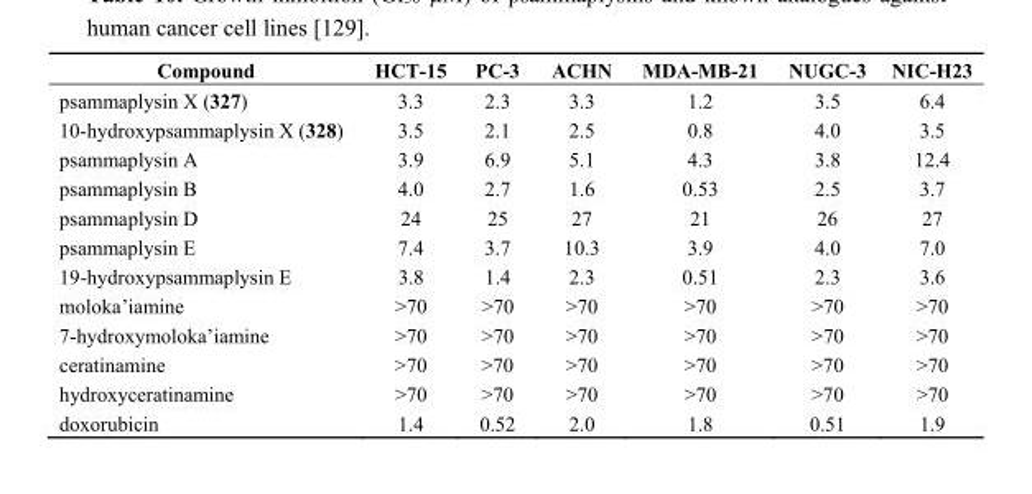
<table><thead><tr><td>Compound</td><td>HCT-15</td><td>PC-3</td><td>ACHN</td><td>MDA-MB-21</td><td>NUGC-3</td><td>NIC-H23</td></tr></thead><tbody><tr><td>psammaplysin X (327)</td><td>3.3</td><td>2.3</td><td>3.3</td><td>1.2</td><td>3.5</td><td>6.4</td></tr><tr><td>10-hydroxypsammaplysin X (328)</td><td>3.5</td><td>2.1</td><td>2.5</td><td>0.8</td><td>4.0</td><td>3.5</td></tr><tr><td>psammaplysin A</td><td>3.9</td><td>6.9</td><td>5.1</td><td>4.3</td><td>3.8</td><td>12.4</td></tr><tr><td>psammaplysin B</td><td>4.0</td><td>2.7</td><td>1.6</td><td>0.53</td><td>2.5</td><td>3.7</td></tr><tr><td>psammaplysin D</td><td>24</td><td>25</td><td>27</td><td>21</td><td>26</td><td>27</td></tr><tr><td>psammaplysin E</td><td>7.4</td><td>3.7</td><td>10.3</td><td>3.9</td><td>4.0</td><td>7.0</td></tr><tr><td>19-hydroxypsammaplysin E</td><td>3.8</td><td>1.4</td><td>2.3</td><td>0.51</td><td>2.3</td><td>3.6</td></tr><tr><td>moloka’iamine</td><td>&gt;70</td><td>&gt;70</td><td>&gt;70</td><td>&gt;70</td><td>&gt;70</td><td>&gt;70</td></tr><tr><td>7-hydroxymoloka’iamine</td><td>&gt;70</td><td>&gt;70</td><td>&gt;70</td><td>&gt;70</td><td>&gt;70</td><td>&gt;70</td></tr><tr><td>ceratinamine</td><td>&gt;70</td><td>&gt;70</td><td>&gt;70</td><td>&gt;70</td><td>&gt;70</td><td>&gt;70</td></tr><tr><td>hydroxyceratinamine</td><td>&gt;70</td><td>&gt;70</td><td>&gt;70</td><td>&gt;70</td><td>&gt;70</td><td>&gt;70</td></tr><tr><td>doxorubicin</td><td>1.4</td><td>0.52</td><td>2.0</td><td>1.8</td><td>0.51</td><td>1.9</td></tr></tbody></table>